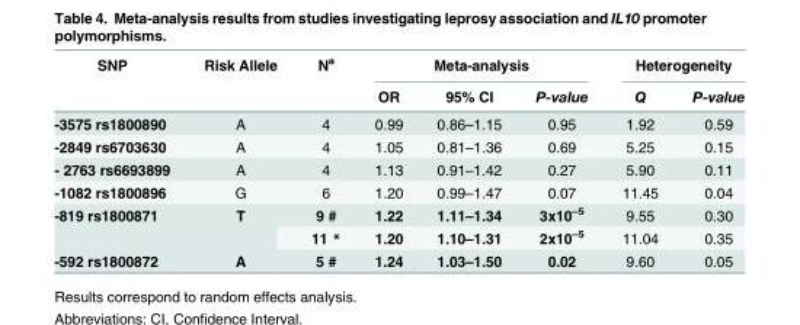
<table><thead><tr><td rowspan="2">SNP</td><td rowspan="2">Risk Allele</td><td rowspan="2">N<sup>a</sup></td><td colspan="3">Meta-analysis</td><td colspan="2">Heterogeneity</td></tr><tr><td>OR</td><td>95% CI</td><td>P-value</td><td>Q</td><td>P-value</td></tr></thead><tbody><tr><td>-3575 rs1800890</td><td>A</td><td>4</td><td>0.99</td><td>0.86–1.15</td><td>0.95</td><td>1.92</td><td>0.59</td></tr><tr><td>-2849 rs6703630</td><td>A</td><td>4</td><td>1.05</td><td>0.81–1.36</td><td>0.69</td><td>5.25</td><td>0.15</td></tr><tr><td>- 2763 rs6693899</td><td>A</td><td>4</td><td>1.13</td><td>0.91–1.42</td><td>0.27</td><td>5.90</td><td>0.11</td></tr><tr><td>-1082 rs1800896</td><td>G</td><td>6</td><td>1.20</td><td>0.99–1.47</td><td>0.07</td><td>11.45</td><td>0.04</td></tr><tr><td rowspan="2">-819 rs1800871</td><td rowspan="2">T</td><td>9 #</td><td>1.22</td><td>1.11–1.34</td><td>3x10<sup>–5</sup></td><td>9.55</td><td>0.30</td></tr><tr><td>11 *</td><td>1.20</td><td>1.10–1.31</td><td>2x10<sup>–5</sup></td><td>11.04</td><td>0.35</td></tr><tr><td>-592 rs1800872</td><td>A</td><td>5 #</td><td>1.24</td><td>1.03–1.50</td><td>0.02</td><td>9.60</td><td>0.05</td></tr></tbody></table>